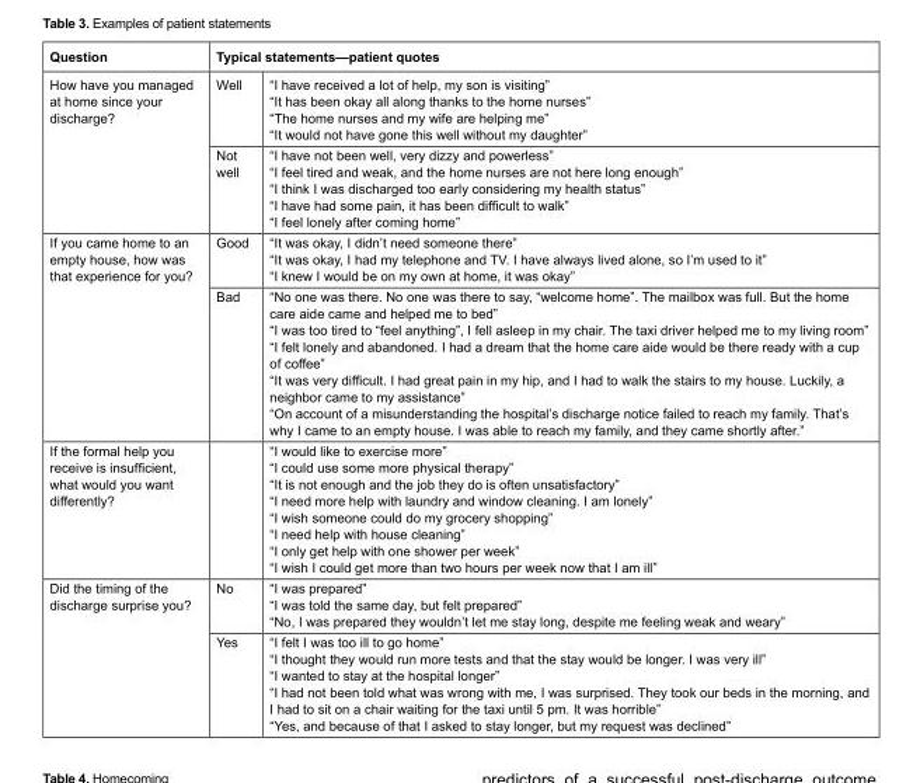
<table><thead><tr><td rowspan="2">Question How have you managed at home since your discharge?</td><td colspan="2">Typical statements—patient quotes</td></tr><tr><td>Well</td><td>“I have received a lot of help, my son is visiting” “It has been okay all along thanks to the home nurses” “The home nurses and my wife are helping me” “It would not have gone this well without my daughter”</td></tr></thead><tbody><tr><td></td><td>Not well</td><td>“I have not been well, very dizzy and powerless” “I feel tired and weak, and the home nurses are not here long enough” “I think I was discharged too early considering my health status” “I have had some pain, it has been difficult to walk” “I feel lonely after coming home”</td></tr><tr><td rowspan="2">If you came home to an empty house, how was that experience for you?</td><td>Good</td><td>“It was okay, I didn’t need someone there” “It was okay, I had my telephone and TV. I have always lived alone, so I’m used to it” “I knew I would be on my own at home, it was okay”</td></tr><tr><td>Bad</td><td>“No one was there. No one was there to say, “welcome home”. The mailbox was full. But the home care aide came and helped me to bed” “I was too tired to “feel anything”, I fell asleep in my chair. The taxi driver helped me to my living room” “I felt lonely and abandoned. I had a dream that the home care aide would be there ready with a cup of coffee” “It was very difficult. I had great pain in my hip, and I had to walk the stairs to my house. Luckily, a neighbor came to my assistance” “On account of a misunderstanding the hospital’s discharge notice failed to reach my family. That’s why I came to an empty house. I was able to reach my family, and they came shortly after.”</td></tr><tr><td>If the formal help you receive is insufficient, what would you want differently?</td><td></td><td>“I would like to exercise more” “I could use some more physical therapy” “It is not enough and the job they do is often unsatisfactory” “I need more help with laundry and window cleaning. I am lonely” “I wish someone could do my grocery shopping” “I need help with house cleaning” “I only get help with one shower per week” “I wish I could get more than two hours per week now that I am ill”</td></tr><tr><td rowspan="2">Did the timing of the discharge surprise you?</td><td>No</td><td>“I was prepared” “I was told the same day, but felt prepared” “No, I was prepared they wouldn’t let me stay long, despite me feeling weak and weary”</td></tr><tr><td>Yes</td><td>“I felt I was too ill to go home” “I thought they would run more tests and that the stay would be longer. I was very ill” “I wanted to stay at the hospital longer” “I had not been told what was wrong with me, I was surprised. They took our beds in the morning, and I had to sit on a chair waiting for the taxi until 5 pm. It was horrible” “Yes, and because of that I asked to stay longer, but my request was declined”</td></tr></tbody></table>